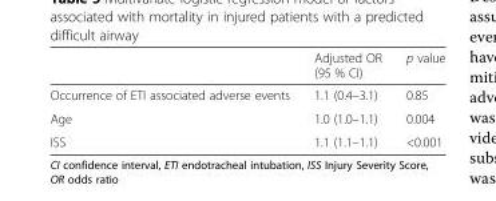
<table><thead><tr><td></td><td>Adjusted OR (95 % CI)</td><td>p value</td></tr></thead><tbody><tr><td>Occurrence of ETI associated adverse events</td><td>1.1 (0.4–3.1)</td><td>0.85</td></tr><tr><td>Age</td><td>1.0 (1.0–1.1)</td><td>0.004</td></tr><tr><td>ISS</td><td>1.1 (1.1–1.1)</td><td>&lt;0.001</td></tr></tbody></table>